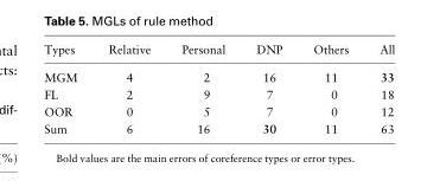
<table><thead><tr><td>Types</td><td>Relative</td><td>Personal</td><td>DNP</td><td>Others</td><td>All</td></tr></thead><tbody><tr><td>MGM</td><td>4</td><td>2</td><td>16</td><td>11</td><td>33</td></tr><tr><td>FL</td><td>2</td><td>9</td><td>7</td><td>0</td><td>18</td></tr><tr><td>OOR</td><td>0</td><td>5</td><td>7</td><td>0</td><td>12</td></tr><tr><td>Sum</td><td>6</td><td>16</td><td>30</td><td>11</td><td>63</td></tr></tbody></table>